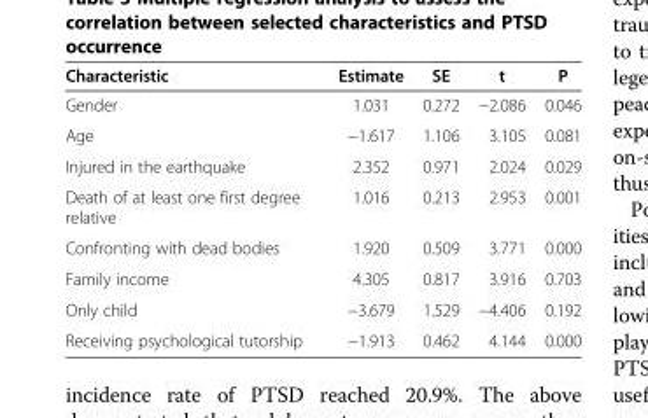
<table><thead><tr><td>Characteristic</td><td>Estimate</td><td>SE</td><td>t</td><td>P</td></tr></thead><tbody><tr><td>Gender</td><td>1.031</td><td>0.272</td><td>−2.086</td><td>0.046</td></tr><tr><td>Age</td><td>−1.617</td><td>1.106</td><td>3.105</td><td>0.081</td></tr><tr><td>Injured in the earthquake</td><td>2.352</td><td>0.971</td><td>2.024</td><td>0.029</td></tr><tr><td>Death of at least one first degree relative</td><td>1.016</td><td>0.213</td><td>2.953</td><td>0.001</td></tr><tr><td>Confronting with dead bodies</td><td>1.920</td><td>0.509</td><td>3.771</td><td>0.000</td></tr><tr><td>Family income</td><td>4.305</td><td>0.817</td><td>3.916</td><td>0.703</td></tr><tr><td>Only child</td><td>−3.679</td><td>1.529</td><td>−4.406</td><td>0.192</td></tr><tr><td>Receiving psychological tutorship</td><td>−1.913</td><td>0.462</td><td>4.144</td><td>0.000</td></tr></tbody></table>